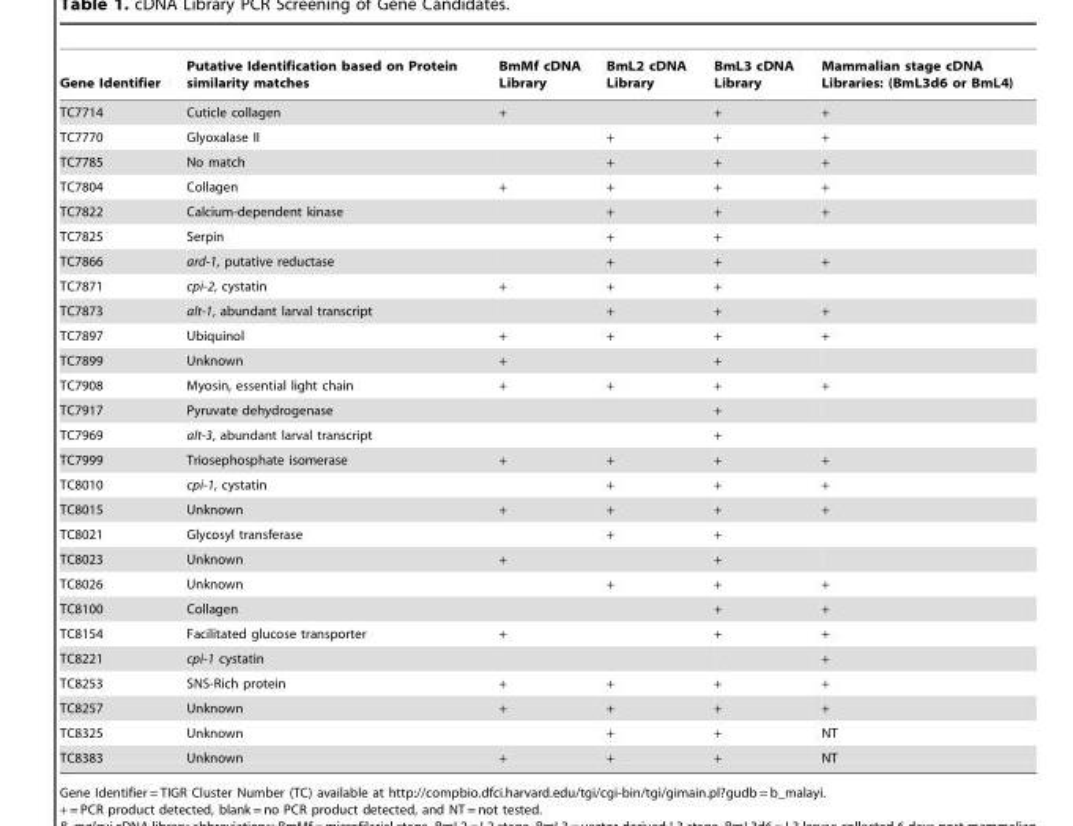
<table><thead><tr><td>Gene Identifier</td><td>Putative Identification based on Protein similarity matches</td><td>BmMf cDNA Library</td><td>BmL2 cDNA Library</td><td>BmL3 cDNA Library</td><td>Mammalian stage cDNA Libraries: (BmL3d6 or BmL4)</td></tr></thead><tbody><tr><td>TC7714</td><td>Cuticle collagen</td><td>+</td><td></td><td>+</td><td>+</td></tr><tr><td>TC7770</td><td>Glyoxalase II</td><td></td><td>+</td><td>+</td><td>+</td></tr><tr><td>TC7785</td><td>No match</td><td></td><td>+</td><td>+</td><td>+</td></tr><tr><td>TC7804</td><td>Collagen</td><td>+</td><td>+</td><td>+</td><td>+</td></tr><tr><td>TC7822</td><td>Calcium-dependent kinase</td><td></td><td>+</td><td>+</td><td>+</td></tr><tr><td>TC7825</td><td>Serpin</td><td></td><td>+</td><td>+</td><td></td></tr><tr><td>TC7866</td><td>ard-1, putative reductase</td><td></td><td>+</td><td>+</td><td>+</td></tr><tr><td>TC7871</td><td>cpi-2, cystatin</td><td>+</td><td>+</td><td>+</td><td></td></tr><tr><td>TC7873</td><td>alt-1, abundant larval transcript</td><td></td><td>+</td><td>+</td><td>+</td></tr><tr><td>TC7897</td><td>Ubiquinol</td><td>+</td><td>+</td><td>+</td><td>+</td></tr><tr><td>TC7899</td><td>Unknown</td><td>+</td><td></td><td>+</td><td></td></tr><tr><td>TC7908</td><td>Myosin, essential light chain</td><td>+</td><td>+</td><td>+</td><td>+</td></tr><tr><td>TC7917</td><td>Pyruvate dehydrogenase</td><td></td><td></td><td>+</td><td></td></tr><tr><td>TC7969</td><td>alt-3, abundant larval transcript</td><td></td><td></td><td>+</td><td></td></tr><tr><td>TC7999</td><td>Triosephosphate isomerase</td><td>+</td><td>+</td><td>+</td><td>+</td></tr><tr><td>TC8010</td><td>cpi-1, cystatin</td><td></td><td>+</td><td>+</td><td>+</td></tr><tr><td>TC8015</td><td>Unknown</td><td>+</td><td>+</td><td>+</td><td>+</td></tr><tr><td>TC8021</td><td>Glycosyl transferase</td><td></td><td>+</td><td>+</td><td></td></tr><tr><td>TC8023</td><td>Unknown</td><td>+</td><td></td><td>+</td><td></td></tr><tr><td>TC8026</td><td>Unknown</td><td></td><td>+</td><td>+</td><td>+</td></tr><tr><td>TC8100</td><td>Collagen</td><td></td><td></td><td>+</td><td>+</td></tr><tr><td>TC8154</td><td>Facilitated glucose transporter</td><td>+</td><td></td><td>+</td><td>+</td></tr><tr><td>TC8221</td><td>cpi-1 cystatin</td><td></td><td></td><td></td><td>+</td></tr><tr><td>TC8253</td><td>SNS-Rich protein</td><td>+</td><td>+</td><td>+</td><td>+</td></tr><tr><td>TC8257</td><td>Unknown</td><td>+</td><td>+</td><td>+</td><td>+</td></tr><tr><td>TC8325</td><td>Unknown</td><td></td><td>+</td><td>+</td><td>NT</td></tr><tr><td>TC8383</td><td>Unknown</td><td>+</td><td>+</td><td>+</td><td>NT</td></tr></tbody></table>